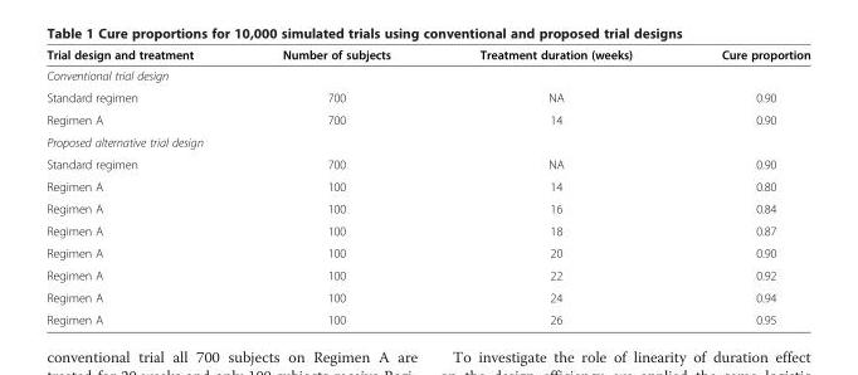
<table><thead><tr><td>Trial design and treatment</td><td>Number of subjects</td><td>Treatment duration (weeks)</td><td>Cure proportion</td></tr></thead><tbody><tr><td colspan="4">Conventional trial design</td></tr><tr><td>Standard regimen</td><td>700</td><td>NA</td><td>0.90</td></tr><tr><td>Regimen A</td><td>700</td><td>14</td><td>0.90</td></tr><tr><td colspan="4">Proposed alternative trial design</td></tr><tr><td>Standard regimen</td><td>700</td><td>NA</td><td>0.90</td></tr><tr><td>Regimen A</td><td>100</td><td>14</td><td>0.80</td></tr><tr><td>Regimen A</td><td>100</td><td>16</td><td>0.84</td></tr><tr><td>Regimen A</td><td>100</td><td>18</td><td>0.87</td></tr><tr><td>Regimen A</td><td>100</td><td>20</td><td>0.90</td></tr><tr><td>Regimen A</td><td>100</td><td>22</td><td>0.92</td></tr><tr><td>Regimen A</td><td>100</td><td>24</td><td>0.94</td></tr><tr><td>Regimen A</td><td>100</td><td>26</td><td>0.95</td></tr></tbody></table>